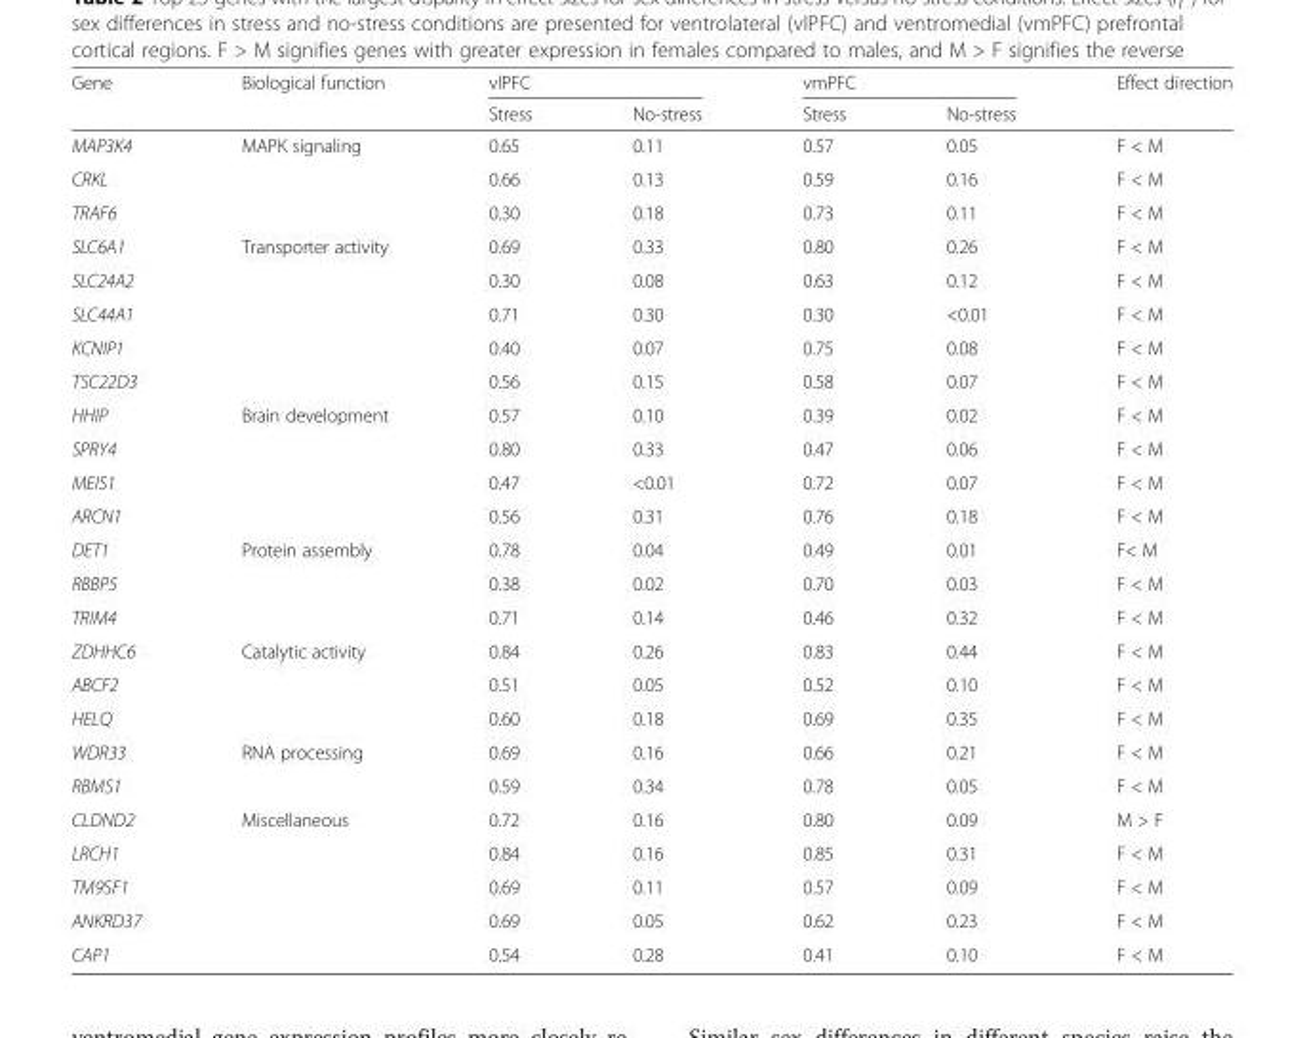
<table><thead><tr><td rowspan="2">Gene</td><td rowspan="2">Biological function</td><td colspan="2">vlPFC</td><td colspan="2">vmPFC</td><td rowspan="2">Effect direction</td></tr><tr><td>Stress</td><td>No-stress</td><td>Stress</td><td>No-stress</td></tr></thead><tbody><tr><td>MAP3K4</td><td rowspan="3">MAPK signaling</td><td>0.65</td><td>0.11</td><td>0.57</td><td>0.05</td><td>F &lt; M</td></tr><tr><td>CRKL</td><td>0.66</td><td>0.13</td><td>0.59</td><td>0.16</td><td>F &lt; M</td></tr><tr><td>TRAF6</td><td>0.30</td><td>0.18</td><td>0.73</td><td>0.11</td><td>F &lt; M</td></tr><tr><td>SLC6A1</td><td rowspan="5">Transporter activity</td><td>0.69</td><td>0.33</td><td>0.80</td><td>0.26</td><td>F &lt; M</td></tr><tr><td>SLC24A2</td><td>0.30</td><td>0.08</td><td>0.63</td><td>0.12</td><td>F &lt; M</td></tr><tr><td>SLC44A1</td><td>0.71</td><td>0.30</td><td>0.30</td><td>&lt;0.01</td><td>F &lt; M</td></tr><tr><td>KCNIP1</td><td>0.40</td><td>0.07</td><td>0.75</td><td>0.08</td><td>F &lt; M</td></tr><tr><td>TSC22D3</td><td>0.56</td><td>0.15</td><td>0.58</td><td>0.07</td><td>F &lt; M</td></tr><tr><td>HHIP</td><td rowspan="4">Brain development</td><td>0.57</td><td>0.10</td><td>0.39</td><td>0.02</td><td>F &lt; M</td></tr><tr><td>SPRY4</td><td>0.80</td><td>0.33</td><td>0.47</td><td>0.06</td><td>F &lt; M</td></tr><tr><td>MEIS1</td><td>0.47</td><td>&lt;0.01</td><td>0.72</td><td>0.07</td><td>F &lt; M</td></tr><tr><td>ARCN1</td><td>0.56</td><td>0.31</td><td>0.76</td><td>0.18</td><td>F &lt; M</td></tr><tr><td>DET1</td><td rowspan="3">Protein assembly</td><td>0.78</td><td>0.04</td><td>0.49</td><td>0.01</td><td>F&lt; M</td></tr><tr><td>RBBP5</td><td>0.38</td><td>0.02</td><td>0.70</td><td>0.03</td><td>F &lt; M</td></tr><tr><td>TRIM4</td><td>0.71</td><td>0.14</td><td>0.46</td><td>0.32</td><td>F &lt; M</td></tr><tr><td>ZDHHC6</td><td rowspan="3">Catalytic activity</td><td>0.84</td><td>0.26</td><td>0.83</td><td>0.44</td><td>F &lt; M</td></tr><tr><td>ABCF2</td><td>0.51</td><td>0.05</td><td>0.52</td><td>0.10</td><td>F &lt; M</td></tr><tr><td>HELQ</td><td>0.60</td><td>0.18</td><td>0.69</td><td>0.35</td><td>F &lt; M</td></tr><tr><td>WDR33</td><td rowspan="2">RNA processing</td><td>0.69</td><td>0.16</td><td>0.66</td><td>0.21</td><td>F &lt; M</td></tr><tr><td>RBMS1</td><td>0.59</td><td>0.34</td><td>0.78</td><td>0.05</td><td>F &lt; M</td></tr><tr><td>CLDND2</td><td rowspan="5">Miscellaneous</td><td>0.72</td><td>0.16</td><td>0.80</td><td>0.09</td><td>M &gt; F</td></tr><tr><td>LRCH1</td><td>0.84</td><td>0.16</td><td>0.85</td><td>0.31</td><td>F &lt; M</td></tr><tr><td>TM9SF1</td><td>0.69</td><td>0.11</td><td>0.57</td><td>0.09</td><td>F &lt; M</td></tr><tr><td>ANKRD37</td><td>0.69</td><td>0.05</td><td>0.62</td><td>0.23</td><td>F &lt; M</td></tr><tr><td>CAP1</td><td>0.54</td><td>0.28</td><td>0.41</td><td>0.10</td><td>F &lt; M</td></tr></tbody></table>